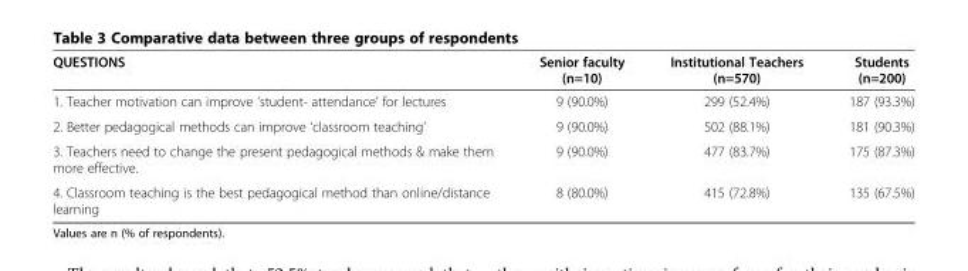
<table><thead><tr><td>QUESTIONS</td><td>Senior faculty (n=10)</td><td>Institutional Teachers (n=570)</td><td>Students (n=200)</td></tr></thead><tbody><tr><td>1. Teacher motivation can improve ‘student- attendance’ for lectures</td><td>9 (90.0%)</td><td>299 (52.4%)</td><td>187 (93.3%)</td></tr><tr><td>2. Better pedagogical methods can improve ‘classroom teaching’</td><td>9 (90.0%)</td><td>502 (88.1%)</td><td>181 (90.3%)</td></tr><tr><td>3. Teachers need to change the present pedagogical methods &amp; make them more effective.</td><td>9 (90.0%)</td><td>477 (83.7%)</td><td>175 (87.3%)</td></tr><tr><td>4. Classroom teaching is the best pedagogical method than online/distance learning</td><td>8 (80.0%)</td><td>415 (72.8%)</td><td>135 (67.5%)</td></tr></tbody></table>